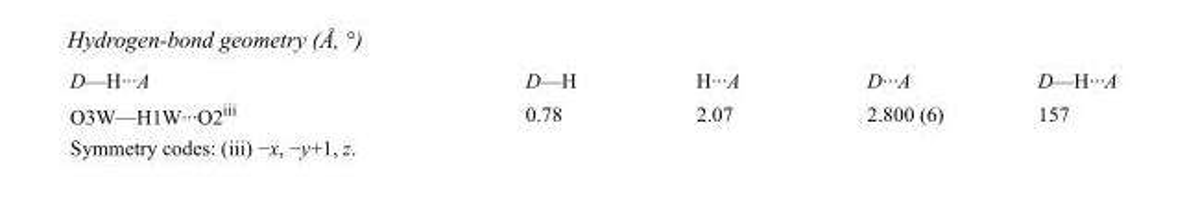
<table><tbody><tr><td>D—H···A</td><td>D—H</td><td>H···A</td><td>D···A</td><td>D—H···A</td></tr><tr><td>O3W—H1W···O2<sup>iii</sup></td><td>0.78</td><td>2.07</td><td>2.800 (6)</td><td>157</td></tr></tbody></table>